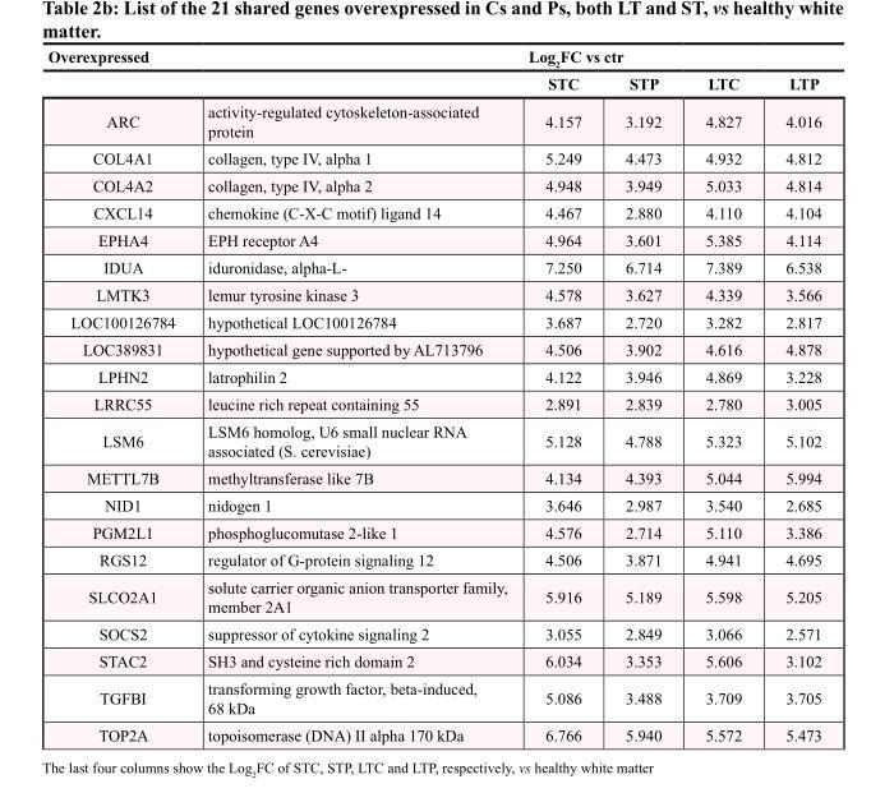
<table><thead><tr><td colspan="2">Overexpressed</td><td colspan="4">Log<sub>2</sub>FC vs ctr</td></tr><tr><td></td><td></td><td>STC</td><td>STP</td><td>LTC</td><td>LTP</td></tr></thead><tbody><tr><td>ARC</td><td>activity-regulated cytoskeleton-associated protein</td><td>4.157</td><td>3.192</td><td>4.827</td><td>4.016</td></tr><tr><td>COL4A1</td><td>collagen, type IV, alpha 1</td><td>5.249</td><td>4.473</td><td>4.932</td><td>4.812</td></tr><tr><td>COL4A2</td><td>collagen, type IV, alpha 2</td><td>4.948</td><td>3.949</td><td>5.033</td><td>4.814</td></tr><tr><td>CXCL14</td><td>chemokine (C-X-C motif) ligand 14</td><td>4.467</td><td>2.880</td><td>4.110</td><td>4.104</td></tr><tr><td>EPHA4</td><td>EPH receptor A4</td><td>4.964</td><td>3.601</td><td>5.385</td><td>4.114</td></tr><tr><td>IDUA</td><td>iduronidase, alpha-L-</td><td>7.250</td><td>6.714</td><td>7.389</td><td>6.538</td></tr><tr><td>LMTK3</td><td>lemur tyrosine kinase 3</td><td>4.578</td><td>3.627</td><td>4.339</td><td>3.566</td></tr><tr><td>LOC100126784</td><td>hypothetical LOC100126784</td><td>3.687</td><td>2.720</td><td>3.282</td><td>2.817</td></tr><tr><td>LOC389831</td><td>hypothetical gene supported by AL713796</td><td>4.506</td><td>3.902</td><td>4.616</td><td>4.878</td></tr><tr><td>LPHN2</td><td>latrophilin 2</td><td>4.122</td><td>3.946</td><td>4.869</td><td>3.228</td></tr><tr><td>LRRC55</td><td>leucine rich repeat containing 55</td><td>2.891</td><td>2.839</td><td>2.780</td><td>3.005</td></tr><tr><td>LSM6</td><td>LSM6 homolog, U6 small nuclear RNA associated (S. cerevisiae)</td><td>5.128</td><td>4.788</td><td>5.323</td><td>5.102</td></tr><tr><td>METTL7B</td><td>methyltransferase like 7B</td><td>4.134</td><td>4.393</td><td>5.044</td><td>5.994</td></tr><tr><td>NID1</td><td>nidogen 1</td><td>3.646</td><td>2.987</td><td>3.540</td><td>2.685</td></tr><tr><td>PGM2L1</td><td>phosphoglucomutase 2-like 1</td><td>4.576</td><td>2.714</td><td>5.110</td><td>3.386</td></tr><tr><td>RGS12</td><td>regulator of G-protein signaling 12</td><td>4.506</td><td>3.871</td><td>4.941</td><td>4.695</td></tr><tr><td>SLCO2A1</td><td>solute carrier organic anion transporter family, member 2A1</td><td>5.916</td><td>5.189</td><td>5.598</td><td>5.205</td></tr><tr><td>SOCS2</td><td>suppressor of cytokine signaling 2</td><td>3.055</td><td>2.849</td><td>3.066</td><td>2.571</td></tr><tr><td>STAC2</td><td>SH3 and cysteine rich domain 2</td><td>6.034</td><td>3.353</td><td>5.606</td><td>3.102</td></tr><tr><td>TGFBI</td><td>transforming growth factor, beta-induced, 68 kDa</td><td>5.086</td><td>3.488</td><td>3.709</td><td>3.705</td></tr><tr><td>TOP2A</td><td>topoisomerase (DNA) II alpha 170 kDa</td><td>6.766</td><td>5.940</td><td>5.572</td><td>5.473</td></tr></tbody></table>